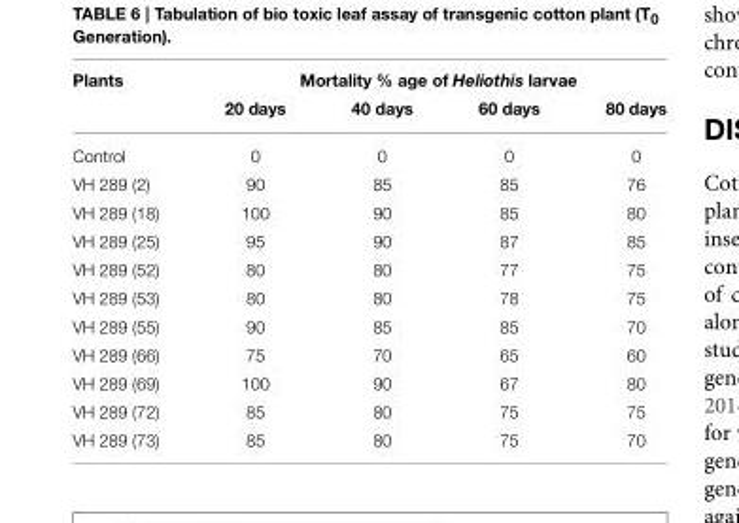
<table><thead><tr><td rowspan="2">Plants</td><td colspan="4">Mortality % age of Heliothis larvae</td></tr><tr><td>20 days</td><td>40 days</td><td>60 days</td><td>80 days</td></tr></thead><tbody><tr><td>Control</td><td>0</td><td>0</td><td>0</td><td>0</td></tr><tr><td>VH 289 (2)</td><td>90</td><td>85</td><td>85</td><td>76</td></tr><tr><td>VH 289 (18)</td><td>100</td><td>90</td><td>85</td><td>80</td></tr><tr><td>VH 289 (25)</td><td>95</td><td>90</td><td>87</td><td>85</td></tr><tr><td>VH 289 (52)</td><td>80</td><td>80</td><td>77</td><td>75</td></tr><tr><td>VH 289 (53)</td><td>80</td><td>80</td><td>78</td><td>75</td></tr><tr><td>VH 289 (55)</td><td>90</td><td>85</td><td>85</td><td>70</td></tr><tr><td>VH 289 (66)</td><td>75</td><td>70</td><td>65</td><td>60</td></tr><tr><td>VH 289 (69)</td><td>100</td><td>90</td><td>67</td><td>80</td></tr><tr><td>VH 289 (72)</td><td>85</td><td>80</td><td>75</td><td>75</td></tr><tr><td>VH 289 (73)</td><td>85</td><td>80</td><td>75</td><td>70</td></tr></tbody></table>